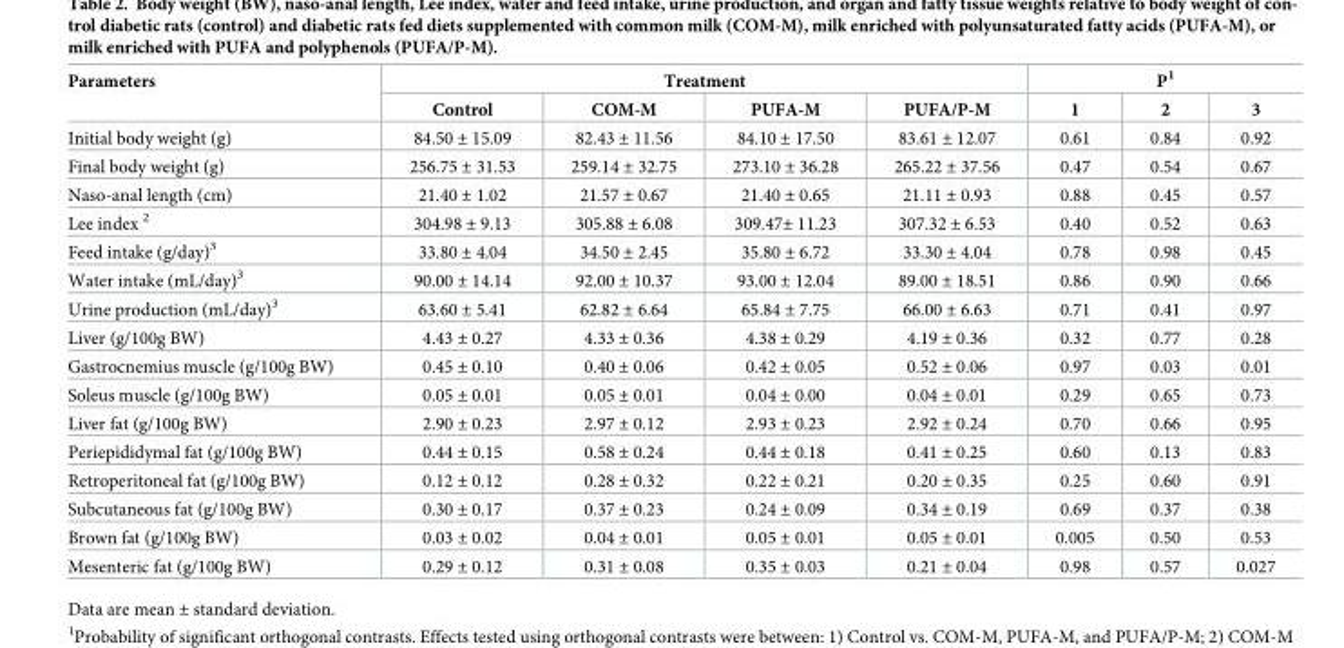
<table><thead><tr><td rowspan="2">Parameters</td><td colspan="4">Treatment</td><td colspan="3">P<sup>1</sup></td></tr><tr><td>Control</td><td>COM-M</td><td>PUFA-M</td><td>PUFA/P-M</td><td>1</td><td>2</td><td>3</td></tr></thead><tbody><tr><td>Initial body weight (g)</td><td>84.50 ± 15.09</td><td>82.43 ± 11.56</td><td>84.10 ± 17.50</td><td>83.61 ± 12.07</td><td>0.61</td><td>0.84</td><td>0.92</td></tr><tr><td>Final body weight (g)</td><td>256.75 ± 31.53</td><td>259.14 ± 32.75</td><td>273.10 ± 36.28</td><td>265.22 ± 37.56</td><td>0.47</td><td>0.54</td><td>0.67</td></tr><tr><td>Naso-anal length (cm)</td><td>21.40 ± 1.02</td><td>21.57 ± 0.67</td><td>21.40 ± 0.65</td><td>21.11 ± 0.93</td><td>0.88</td><td>0.45</td><td>0.57</td></tr><tr><td>Lee index <sup>2</sup></td><td>304.98 ± 9.13</td><td>305.88 ± 6.08</td><td>309.47± 11.23</td><td>307.32 ± 6.53</td><td>0.40</td><td>0.52</td><td>0.63</td></tr><tr><td>Feed intake (g/day)<sup>3</sup></td><td>33.80 ± 4.04</td><td>34.50 ± 2.45</td><td>35.80 ± 6.72</td><td>33.30 ± 4.04</td><td>0.78</td><td>0.98</td><td>0.45</td></tr><tr><td>Water intake (mL/day)<sup>3</sup></td><td>90.00 ± 14.14</td><td>92.00 ± 10.37</td><td>93.00 ± 12.04</td><td>89.00 ± 18.51</td><td>0.86</td><td>0.90</td><td>0.66</td></tr><tr><td>Urine production (mL/day)<sup>3</sup></td><td>63.60 ± 5.41</td><td>62.82 ± 6.64</td><td>65.84 ± 7.75</td><td>66.00 ± 6.63</td><td>0.71</td><td>0.41</td><td>0.97</td></tr><tr><td>Liver (g/100g BW)</td><td>4.43 ± 0.27</td><td>4.33 ± 0.36</td><td>4.38 ± 0.29</td><td>4.19 ± 0.36</td><td>0.32</td><td>0.77</td><td>0.28</td></tr><tr><td>Gastrocnemius muscle (g/100g BW)</td><td>0.45 ± 0.10</td><td>0.40 ± 0.06</td><td>0.42 ± 0.05</td><td>0.52 ± 0.06</td><td>0.97</td><td>0.03</td><td>0.01</td></tr><tr><td>Soleus muscle (g/100g BW)</td><td>0.05 ± 0.01</td><td>0.05 ± 0.01</td><td>0.04 ± 0.00</td><td>0.04 ± 0.01</td><td>0.29</td><td>0.65</td><td>0.73</td></tr><tr><td>Liver fat (g/100g BW)</td><td>2.90 ± 0.23</td><td>2.97 ± 0.12</td><td>2.93 ± 0.23</td><td>2.92 ± 0.24</td><td>0.70</td><td>0.66</td><td>0.95</td></tr><tr><td>Periepididymal fat (g/100g BW)</td><td>0.44 ± 0.15</td><td>0.58 ± 0.24</td><td>0.44 ± 0.18</td><td>0.41 ± 0.25</td><td>0.60</td><td>0.13</td><td>0.83</td></tr><tr><td>Retroperitoneal fat (g/100g BW)</td><td>0.12 ± 0.12</td><td>0.28 ± 0.32</td><td>0.22 ± 0.21</td><td>0.20 ± 0.35</td><td>0.25</td><td>0.60</td><td>0.91</td></tr><tr><td>Subcutaneous fat (g/100g BW)</td><td>0.30 ± 0.17</td><td>0.37 ± 0.23</td><td>0.24 ± 0.09</td><td>0.34 ± 0.19</td><td>0.69</td><td>0.37</td><td>0.38</td></tr><tr><td>Brown fat (g/100g BW)</td><td>0.03 ± 0.02</td><td>0.04 ± 0.01</td><td>0.05 ± 0.01</td><td>0.05 ± 0.01</td><td>0.005</td><td>0.50</td><td>0.53</td></tr><tr><td>Mesenteric fat (g/100g BW)</td><td>0.29 ± 0.12</td><td>0.31 ± 0.08</td><td>0.35 ± 0.03</td><td>0.21 ± 0.04</td><td>0.98</td><td>0.57</td><td>0.027</td></tr></tbody></table>